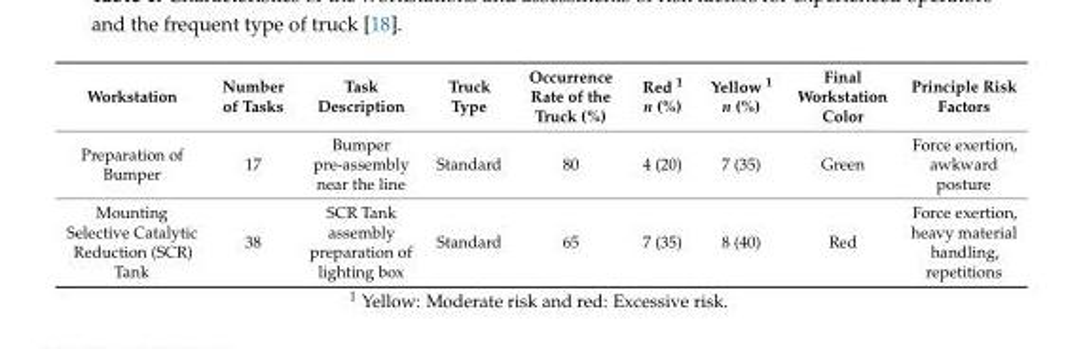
<table><thead><tr><td>Workstation</td><td>Number of Tasks</td><td>Task Description</td><td>Truck Type</td><td>Occurrence Rate of the Truck (%)</td><td>Red <sup>1</sup> n (%)</td><td>Yellow <sup>1</sup> n (%)</td><td>Final Workstation Color</td><td>Principle Risk Factors</td></tr></thead><tbody><tr><td>Preparation of Bumper</td><td>17</td><td>Bumper pre-assembly near the line</td><td>Standard</td><td>80</td><td>4 (20)</td><td>7 (35)</td><td>Green</td><td>Force exertion, awkward posture</td></tr><tr><td>Mounting Selective Catalytic Reduction (SCR) Tank</td><td>38</td><td>SCR Tank assembly preparation of lighting box</td><td>Standard</td><td>65</td><td>7 (35)</td><td>8 (40)</td><td>Red</td><td>Force exertion, heavy material handling, repetitions</td></tr></tbody></table>